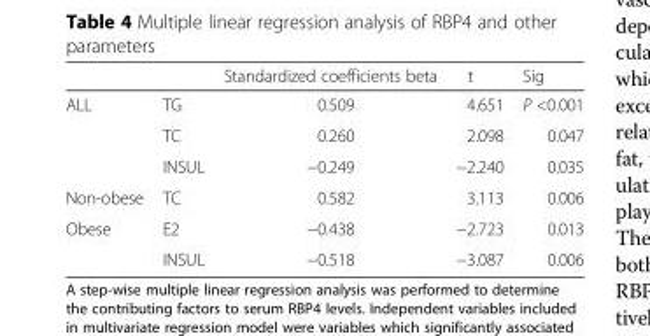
<table><thead><tr><td></td><td></td><td>Standardized coefficients beta</td><td>t</td><td>Sig</td></tr></thead><tbody><tr><td rowspan="3">ALL</td><td>TG</td><td>0.509</td><td>4.651</td><td>P &lt;0.001</td></tr><tr><td>TC</td><td>0.260</td><td>2.098</td><td>0.047</td></tr><tr><td>INSUL</td><td>−0.249</td><td>−2.240</td><td>0.035</td></tr><tr><td>Non-obese</td><td>TC</td><td>0.582</td><td>3.113</td><td>0.006</td></tr><tr><td rowspan="2">Obese</td><td>E2</td><td>−0.438</td><td>−2.723</td><td>0.013</td></tr><tr><td>INSUL</td><td>−0.518</td><td>−3.087</td><td>0.006</td></tr></tbody></table>